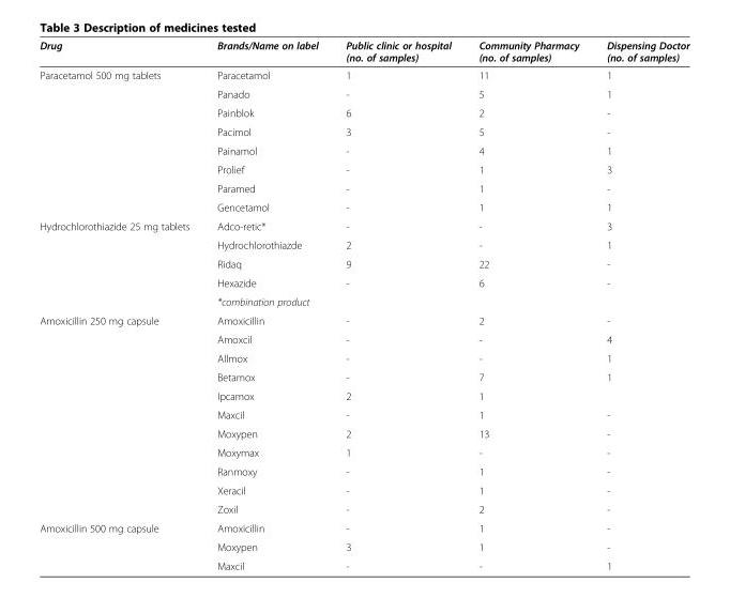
<table><thead><tr><td>Drug</td><td>Brands/Name on label</td><td>Public clinic or hospital (no. of samples)</td><td>Community Pharmacy (no. of samples)</td><td>Dispensing Doctor (no. of samples)</td></tr></thead><tbody><tr><td rowspan="8">Paracetamol 500 mg tablets</td><td>Paracetamol</td><td>1</td><td>11</td><td>1</td></tr><tr><td>Panado</td><td>-</td><td>5</td><td>1</td></tr><tr><td>Painblok</td><td>6</td><td>2</td><td>-</td></tr><tr><td>Pacimol</td><td>3</td><td>5</td><td>-</td></tr><tr><td>Painamol</td><td>-</td><td>4</td><td>1</td></tr><tr><td>Prolief</td><td>-</td><td>1</td><td>3</td></tr><tr><td>Paramed</td><td>-</td><td>1</td><td>-</td></tr><tr><td>Gencetamol</td><td>-</td><td>1</td><td>1</td></tr><tr><td rowspan="5">Hydrochlorothiazide 25 mg tablets</td><td>Adco-retic*</td><td>-</td><td>-</td><td>3</td></tr><tr><td>Hydrochlorothiazde</td><td>2</td><td>-</td><td>1</td></tr><tr><td>Ridaq</td><td>9</td><td>22</td><td>-</td></tr><tr><td>Hexazide</td><td>-</td><td>6</td><td>-</td></tr><tr><td>*combination product</td><td></td><td></td><td></td></tr><tr><td rowspan="11">Amoxicillin 250 mg capsule</td><td>Amoxicillin</td><td>-</td><td>2</td><td>-</td></tr><tr><td>Amoxcil</td><td>-</td><td>-</td><td>4</td></tr><tr><td>Allmox</td><td>-</td><td>-</td><td>1</td></tr><tr><td>Betamox</td><td>-</td><td>7</td><td>1</td></tr><tr><td>Ipcamox</td><td>2</td><td>1</td><td></td></tr><tr><td>Maxcil</td><td>-</td><td>1</td><td>-</td></tr><tr><td>Moxypen</td><td>2</td><td>13</td><td>-</td></tr><tr><td>Moxymax</td><td>1</td><td>-</td><td>-</td></tr><tr><td>Ranmoxy</td><td>-</td><td>1</td><td>-</td></tr><tr><td>Xeracil</td><td>-</td><td>1</td><td>-</td></tr><tr><td>Zoxil</td><td>-</td><td>2</td><td>-</td></tr><tr><td rowspan="3">Amoxicillin 500 mg capsule</td><td>Amoxicillin</td><td>-</td><td>1</td><td>-</td></tr><tr><td>Moxypen</td><td>3</td><td>1</td><td>-</td></tr><tr><td>Maxcil</td><td>-</td><td>-</td><td>1</td></tr></tbody></table>